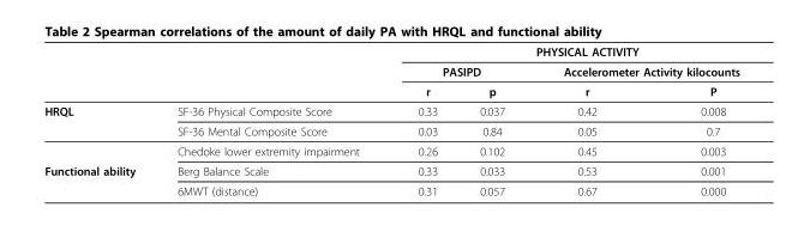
<table><thead><tr><td rowspan="3"></td><td rowspan="3"></td><td colspan="4">PHYSICAL ACTIVITY</td></tr><tr><td colspan="2">PASIPD</td><td colspan="2">Accelerometer Activity kilocounts</td></tr><tr><td>r</td><td>p</td><td>r</td><td>P</td></tr></thead><tbody><tr><td rowspan="3">HRQL</td><td>SF-36 Physical Composite Score</td><td>0.33</td><td>0.037</td><td>0.42</td><td>0.008</td></tr><tr><td>SF-36 Mental Composite Score</td><td>0.03</td><td>0.84</td><td>0.05</td><td>0.7</td></tr><tr><td>Chedoke lower extremity impairment</td><td>0.26</td><td>0.102</td><td>0.45</td><td>0.003</td></tr><tr><td rowspan="2">Functional ability</td><td>Berg Balance Scale</td><td>0.33</td><td>0.033</td><td>0.53</td><td>0.001</td></tr><tr><td>6MWT (distance)</td><td>0.31</td><td>0.057</td><td>0.67</td><td>0.000</td></tr></tbody></table>